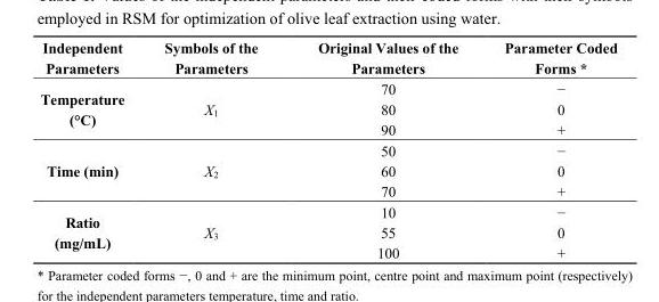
<table><thead><tr><td>Independent Parameters</td><td>Symbols of the Parameters</td><td>Original Values of the Parameters</td><td>Parameter Coded Forms *</td></tr></thead><tbody><tr><td rowspan="3">Temperature (°C)</td><td rowspan="3">X<sub>1</sub></td><td>70</td><td>−</td></tr><tr><td>80</td><td>0</td></tr><tr><td>90</td><td>+</td></tr><tr><td rowspan="3">Time (min)</td><td rowspan="3">X<sub>2</sub></td><td>50</td><td>−</td></tr><tr><td>60</td><td>0</td></tr><tr><td>70</td><td>+</td></tr><tr><td rowspan="3">Ratio (mg/mL)</td><td rowspan="3">X<sub>3</sub></td><td>10</td><td>−</td></tr><tr><td>55</td><td>0</td></tr><tr><td>100</td><td>+</td></tr></tbody></table>